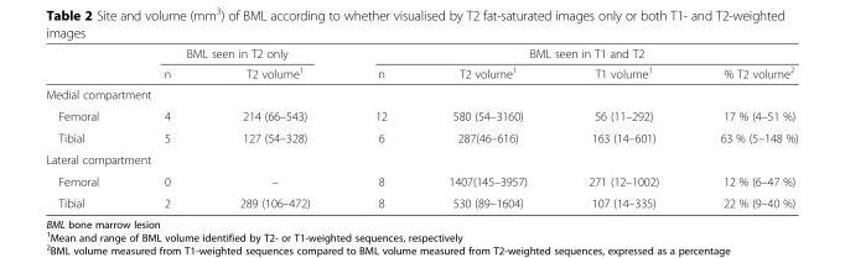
<table><thead><tr><td rowspan="2"></td><td colspan="2">BML seen in T2 only</td><td colspan="4">BML seen in T1 and T2</td></tr><tr><td>n</td><td>T2 volume<sup>1</sup></td><td>n</td><td>T2 volume<sup>1</sup></td><td>T1 volume<sup>1</sup></td><td>% T2 volume<sup>2</sup></td></tr></thead><tbody><tr><td colspan="7">Medial compartment</td></tr><tr><td>Femoral</td><td>4</td><td>214 (66–543)</td><td>12</td><td>580 (54–3160)</td><td>56 (11–292)</td><td>17 % (4–51 %)</td></tr><tr><td>Tibial</td><td>5</td><td>127 (54–328)</td><td>6</td><td>287(46–616)</td><td>163 (14–601)</td><td>63 % (5–148 %)</td></tr><tr><td colspan="7">Lateral compartment</td></tr><tr><td>Femoral</td><td>0</td><td>–</td><td>8</td><td>1407(145–3957)</td><td>271 (12–1002)</td><td>12 % (6–47 %)</td></tr><tr><td>Tibial</td><td>2</td><td>289 (106–472)</td><td>8</td><td>530 (89–1604)</td><td>107 (14–335)</td><td>22 % (9–40 %)</td></tr></tbody></table>